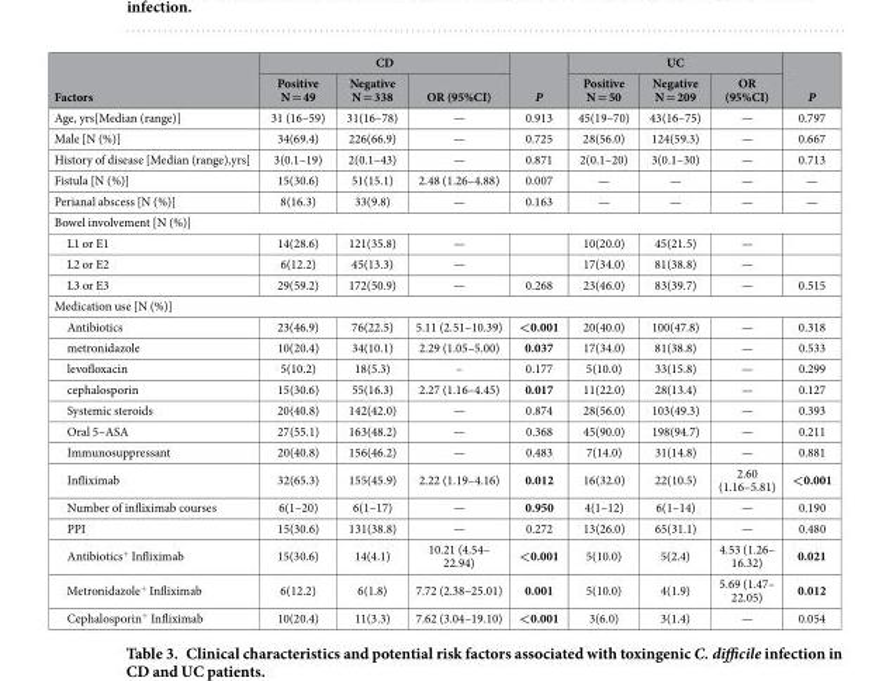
<table><thead><tr><td rowspan="2">Factors</td><td colspan="3">CD</td><td rowspan="2">P</td><td colspan="3">UC</td><td rowspan="2">P</td></tr><tr><td>Positive N = 49</td><td>Negative N = 338</td><td>OR (95%CI)</td><td>Positive N = 50</td><td>Negative N = 209</td><td>OR (95%CI)</td></tr></thead><tbody><tr><td>Age, yrs[Median (range)]</td><td>31 (16–59)</td><td>31(16–78)</td><td>—</td><td>0.913</td><td>45(19–70)</td><td>43(16–75)</td><td>—</td><td>0.797</td></tr><tr><td>Male [N (%)]</td><td>34(69.4)</td><td>226(66.9)</td><td>—</td><td>0.725</td><td>28(56.0)</td><td>124(59.3)</td><td>—</td><td>0.667</td></tr><tr><td>History of disease [Median (range),yrs]</td><td>3(0.1–19)</td><td>2(0.1–43)</td><td>—</td><td>0.871</td><td>2(0.1–20)</td><td>3(0.1–30)</td><td>—</td><td>0.713</td></tr><tr><td>Fistula [N (%)]</td><td>15(30.6)</td><td>51(15.1)</td><td>2.48 (1.26–4.88)</td><td>0.007</td><td>—</td><td>—</td><td>—</td><td>—</td></tr><tr><td>Perianal abscess [N (%)]</td><td>8(16.3)</td><td>33(9.8)</td><td>—</td><td>0.163</td><td>—</td><td>—</td><td>—</td><td>—</td></tr><tr><td colspan="9">Bowel involvement [N (%)]</td></tr><tr><td>L1 or E1</td><td>14(28.6)</td><td>121(35.8)</td><td>—</td><td></td><td>10(20.0)</td><td>45(21.5)</td><td>—</td><td></td></tr><tr><td>L2 or E2</td><td>6(12.2)</td><td>45(13.3)</td><td>—</td><td></td><td>17(34.0)</td><td>81(38.8)</td><td>—</td><td></td></tr><tr><td>L3 or E3</td><td>29(59.2)</td><td>172(50.9)</td><td>—</td><td>0.268</td><td>23(46.0)</td><td>83(39.7)</td><td>—</td><td>0.515</td></tr><tr><td colspan="9">Medication use [N (%)]</td></tr><tr><td>Antibiotics</td><td>23(46.9)</td><td>76(22.5)</td><td>5.11 (2.51–10.39)</td><td>&lt;0.001</td><td>20(40.0)</td><td>100(47.8)</td><td>—</td><td>0.318</td></tr><tr><td>metronidazole</td><td>10(20.4)</td><td>34(10.1)</td><td>2.29 (1.05–5.00)</td><td>0.037</td><td>17(34.0)</td><td>81(38.8)</td><td>—</td><td>0.533</td></tr><tr><td>levofloxacin</td><td>5(10.2)</td><td>18(5.3)</td><td>–</td><td>0.177</td><td>5(10.0)</td><td>33(15.8)</td><td>—</td><td>0.299</td></tr><tr><td>cephalosporin</td><td>15(30.6)</td><td>55(16.3)</td><td>2.27 (1.16–4.45)</td><td>0.017</td><td>11(22.0)</td><td>28(13.4)</td><td>—</td><td>0.127</td></tr><tr><td>Systemic steroids</td><td>20(40.8)</td><td>142(42.0)</td><td>—</td><td>0.874</td><td>28(56.0)</td><td>103(49.3)</td><td>—</td><td>0.393</td></tr><tr><td>Oral 5–ASA</td><td>27(55.1)</td><td>163(48.2)</td><td>—</td><td>0.368</td><td>45(90.0)</td><td>198(94.7)</td><td>—</td><td>0.211</td></tr><tr><td>Immunosuppressant</td><td>20(40.8)</td><td>156(46.2)</td><td>—</td><td>0.483</td><td>7(14.0)</td><td>31(14.8)</td><td>—</td><td>0.881</td></tr><tr><td>Infliximab</td><td>32(65.3)</td><td>155(45.9)</td><td>2.22 (1.19–4.16)</td><td>0.012</td><td>16(32.0)</td><td>22(10.5)</td><td>2.60 (1.16–5.81)</td><td>&lt;0.001</td></tr><tr><td>Number of infliximab courses</td><td>6(1–20)</td><td>6(1–17)</td><td>—</td><td>0.950</td><td>4(1–12)</td><td>6(1–14)</td><td>—</td><td>0.190</td></tr><tr><td>PPI</td><td>15(30.6)</td><td>131(38.8)</td><td>—</td><td>0.272</td><td>13(26.0)</td><td>65(31.1)</td><td>—</td><td>0.480</td></tr><tr><td>Antibiotics<sup>+</sup> Infliximab</td><td>15(30.6)</td><td>14(4.1)</td><td>10.21 (4.54– 22.94)</td><td>&lt;0.001</td><td>5(10.0)</td><td>5(2.4)</td><td>4.53 (1.26– 16.32)</td><td>0.021</td></tr><tr><td>Metronidazole<sup>+</sup> Infliximab</td><td>6(12.2)</td><td>6(1.8)</td><td>7.72 (2.38–25.01)</td><td>0.001</td><td>5(10.0)</td><td>4(1.9)</td><td>5.69 (1.47– 22.05)</td><td>0.012</td></tr><tr><td>Cephalosporin<sup>+</sup> Infliximab</td><td>10(20.4)</td><td>11(3.3)</td><td>7.62 (3.04–19.10)</td><td>&lt;0.001</td><td>3(6.0)</td><td>3(1.4)</td><td>—</td><td>0.054</td></tr></tbody></table>